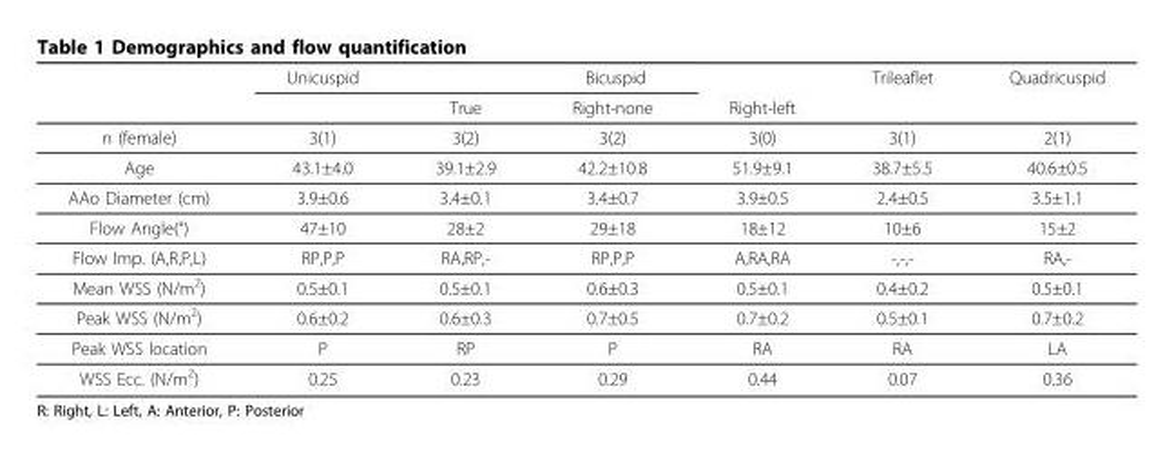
<table><thead><tr><td rowspan="2"></td><td rowspan="2">Unicuspid</td><td colspan="3">Bicuspid</td><td rowspan="2">Trileaflet</td><td rowspan="2">Quadricuspid</td></tr><tr><td>True</td><td>Right-none</td><td>Right-left</td></tr></thead><tbody><tr><td>n (female)</td><td>3(1)</td><td>3(2)</td><td>3(2)</td><td>3(0)</td><td>3(1)</td><td>2(1)</td></tr><tr><td>Age</td><td>43.1±4.0</td><td>39.1±2.9</td><td>42.2±10.8</td><td>51.9±9.1</td><td>38.7±5.5</td><td>40.6±0.5</td></tr><tr><td>AAo Diameter (cm)</td><td>3.9±0.6</td><td>3.4±0.1</td><td>3.4±0.7</td><td>3.9±0.5</td><td>2.4±0.5</td><td>3.5±1.1</td></tr><tr><td>Flow Angle(°)</td><td>47±10</td><td>28±2</td><td>29±18</td><td>18±12</td><td>10±6</td><td>15±2</td></tr><tr><td>Flow Imp. (A,R,P,L)</td><td>RP,P,P</td><td>RA,RP,-</td><td>RP,P,P</td><td>A,RA,RA</td><td>-,-,-</td><td>RA,-</td></tr><tr><td>Mean WSS (N/m<sup>2</sup>)</td><td>0.5±0.1</td><td>0.5±0.1</td><td>0.6±0.3</td><td>0.5±0.1</td><td>0.4±0.2</td><td>0.5±0.1</td></tr><tr><td>Peak WSS (N/m<sup>2</sup>)</td><td>0.6±0.2</td><td>0.6±0.3</td><td>0.7±0.5</td><td>0.7±0.2</td><td>0.5±0.1</td><td>0.7±0.2</td></tr><tr><td>Peak WSS location</td><td>P</td><td>RP</td><td>P</td><td>RA</td><td>RA</td><td>LA</td></tr><tr><td>WSS Ecc. (N/m<sup>2</sup>)</td><td>0.25</td><td>0.23</td><td>0.29</td><td>0.44</td><td>0.07</td><td>0.36</td></tr></tbody></table>